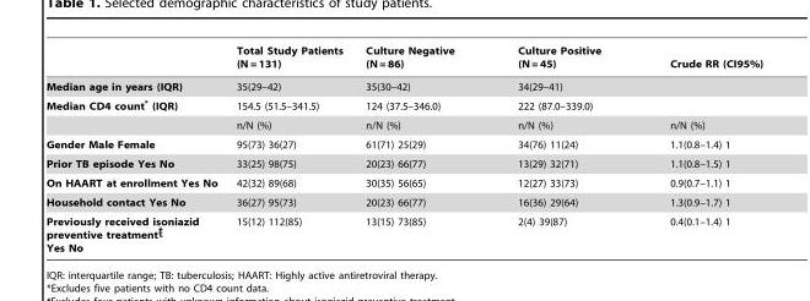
<table><thead><tr><td></td><td>Total Study Patients (N = 131)</td><td>Culture Negative (N = 86)</td><td>Culture Positive (N = 45)</td><td>Crude RR (CI95%)</td></tr></thead><tbody><tr><td>Median age in years (IQR)</td><td>35(29–42)</td><td>35(30–42)</td><td>34(29–41)</td><td></td></tr><tr><td rowspan="2">Median CD4 count* (IQR)</td><td>154.5 (51.5–341.5)</td><td>124 (37.5–346.0)</td><td>222 (87.0–339.0)</td><td></td></tr><tr><td>n/N (%)</td><td>n/N (%)</td><td>n/N (%)</td><td>n/N (%)</td></tr><tr><td>Gender Male Female</td><td>95(73) 36(27)</td><td>61(71) 25(29)</td><td>34(76) 11(24)</td><td>1.1(0.8–1.4) 1</td></tr><tr><td>Prior TB episode Yes No</td><td>33(25) 98(75)</td><td>20(23) 66(77)</td><td>13(29) 32(71)</td><td>1.1(0.8–1.5) 1</td></tr><tr><td>On HAART at enrollment Yes No</td><td>42(32) 89(68)</td><td>30(35) 56(65)</td><td>12(27) 33(73)</td><td>0.9(0.7–1.1) 1</td></tr><tr><td>Household contact Yes No</td><td>36(27) 95(73)</td><td>20(23) 66(77)</td><td>16(36) 29(64)</td><td>1.3(0.9–1.7) 1</td></tr><tr><td>Previously received isoniazid preventive treatment Yes No</td><td>15(12) 112(85)</td><td>13(15) 73(85)</td><td>2(4) 39(87)</td><td>0.4(0.1–1.4) 1</td></tr></tbody></table>